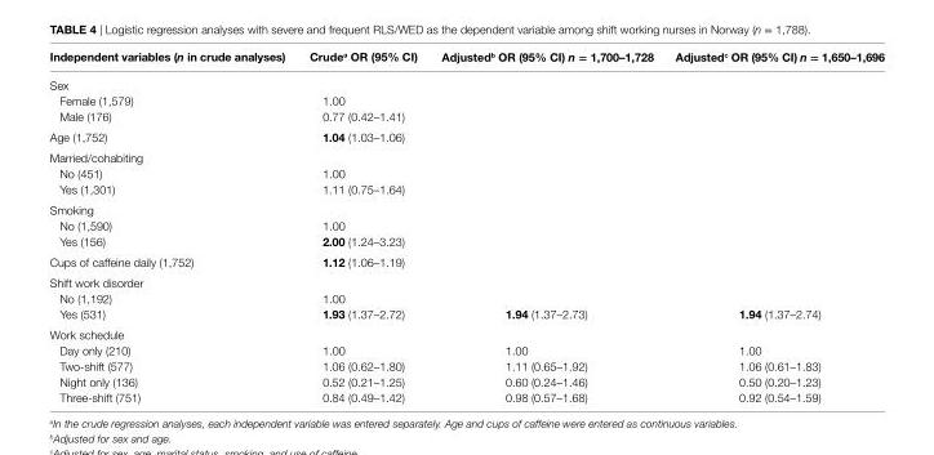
<table><thead><tr><td>independent variables (n in crude analyses)</td><td>crude<sup>a</sup> Or (95% ci)</td><td>adjusted<sup>b</sup> Or (95% ci) n = 1,700–1,728</td><td>adjusted<sup>c</sup> Or (95% ci) n = 1,650–1,696</td></tr></thead><tbody><tr><td colspan="2">Sex</td><td rowspan="3"></td><td rowspan="3"></td></tr><tr><td>Female (1,579)</td><td>1.00</td></tr><tr><td>Male (176)</td><td>0.77 (0.42–1.41)</td></tr><tr><td>Age (1,752)</td><td>1.04 (1.03–1.06)</td><td></td><td></td></tr><tr><td colspan="2">Married/cohabiting</td><td rowspan="3"></td><td rowspan="3"></td></tr><tr><td>No (451)</td><td>1.00</td></tr><tr><td>Yes (1,301)</td><td>1.11 (0.75–1.64)</td></tr><tr><td colspan="2">Smoking</td><td rowspan="3"></td><td rowspan="3"></td></tr><tr><td>No (1,590)</td><td>1.00</td></tr><tr><td>Yes (156)</td><td>2.00 (1.24–3.23)</td></tr><tr><td>Cups of caffeine daily (1,752)</td><td>1.12 (1.06–1.19)</td><td></td><td></td></tr><tr><td colspan="4">Shift work disorder</td></tr><tr><td>No (1,192)</td><td>1.00</td><td></td><td></td></tr><tr><td>Yes (531)</td><td>1.93 (1.37–2.72)</td><td>1.94 (1.37–2.73)</td><td>1.94 (1.37–2.74)</td></tr><tr><td colspan="4">Work schedule</td></tr><tr><td>Day only (210)</td><td>1.00</td><td>1.00</td><td>1.00</td></tr><tr><td>Two-shift (577)</td><td>1.06 (0.62–1.80)</td><td>1.11 (0.65–1.92)</td><td>1.06 (0.61–1.83)</td></tr><tr><td>Night only (136)</td><td>0.52 (0.21–1.25)</td><td>0.60 (0.24–1.46)</td><td>0.50 (0.20–1.23)</td></tr><tr><td>Three-shift (751)</td><td>0.84 (0.49–1.42)</td><td>0.98 (0.57–1.68)</td><td>0.92 (0.54–1.59)</td></tr></tbody></table>